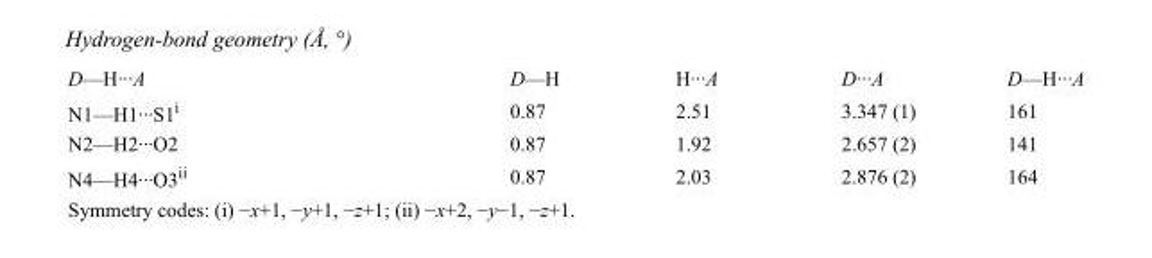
<table><tbody><tr><td>D—H···A</td><td>D—H</td><td>H···A</td><td>D···A</td><td>D—H···A</td></tr><tr><td>N1—H1···S1<sup>i</sup></td><td>0.87</td><td>2.51</td><td>3.347 (1)</td><td>161</td></tr><tr><td>N2—H2···O2</td><td>0.87</td><td>1.92</td><td>2.657 (2)</td><td>141</td></tr><tr><td>N4—H4···O3<sup>ii</sup></td><td>0.87</td><td>2.03</td><td>2.876 (2)</td><td>164</td></tr></tbody></table>